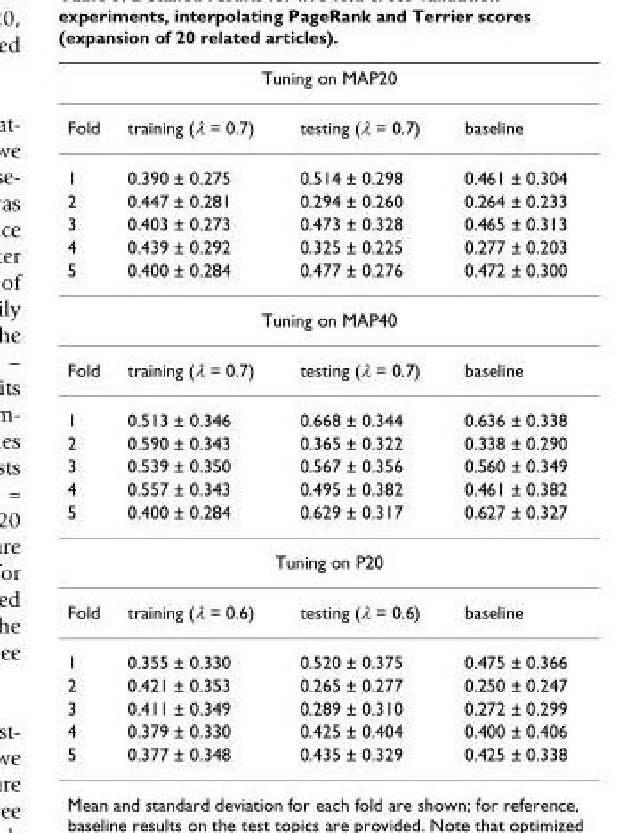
<table><thead><tr><td colspan="4">Tuning on MAP20</td></tr><tr><td>Fold</td><td>training (λ = 0.7)</td><td>testing (λ = 0.7)</td><td>baseline</td></tr></thead><tbody><tr><td>1</td><td>0.390 ± 0.275</td><td>0.514 ± 0.298</td><td>0.461 ± 0.304</td></tr><tr><td>2</td><td>0.447 ± 0.281</td><td>0.294 ± 0.260</td><td>0.264 ± 0.233</td></tr><tr><td>3</td><td>0.403 ± 0.273</td><td>0.473 ± 0.328</td><td>0.465 ± 0.313</td></tr><tr><td>4</td><td>0.439 ± 0.292</td><td>0.325 ± 0.225</td><td>0.277 ± 0.203</td></tr><tr><td>5</td><td>0.400 ± 0.284</td><td>0.477 ± 0.276</td><td>0.472 ± 0.300</td></tr><tr><td colspan="4">Tuning on MAP40</td></tr><tr><td>Fold</td><td>training (λ = 0.7)</td><td>testing (λ = 0.7)</td><td>baseline</td></tr><tr><td>1</td><td>0.513 ± 0.346</td><td>0.668 ± 0.344</td><td>0.636 ± 0.338</td></tr><tr><td>2</td><td>0.590 ± 0.343</td><td>0.365 ± 0.322</td><td>0.338 ± 0.290</td></tr><tr><td>3</td><td>0.539 ± 0.350</td><td>0.567 ± 0.356</td><td>0.560 ± 0.349</td></tr><tr><td>4</td><td>0.557 ± 0.343</td><td>0.495 ± 0.382</td><td>0.461 ± 0.382</td></tr><tr><td>5</td><td>0.400 ± 0.284</td><td>0.629 ± 0.317</td><td>0.627 ± 0.327</td></tr><tr><td colspan="4">Tuning on P20</td></tr><tr><td>Fold</td><td>training (λ = 0.6)</td><td>testing (λ = 0.6)</td><td>baseline</td></tr><tr><td>1</td><td>0.355 ± 0.330</td><td>0.520 ± 0.375</td><td>0.475 ± 0.366</td></tr><tr><td>2</td><td>0.421 ± 0.353</td><td>0.265 ± 0.277</td><td>0.250 ± 0.247</td></tr><tr><td>3</td><td>0.411 ± 0.349</td><td>0.289 ± 0.310</td><td>0.272 ± 0.299</td></tr><tr><td>4</td><td>0.379 ± 0.330</td><td>0.425 ± 0.404</td><td>0.400 ± 0.406</td></tr><tr><td>5</td><td>0.377 ± 0.348</td><td>0.435 ± 0.329</td><td>0.425 ± 0.338</td></tr></tbody></table>